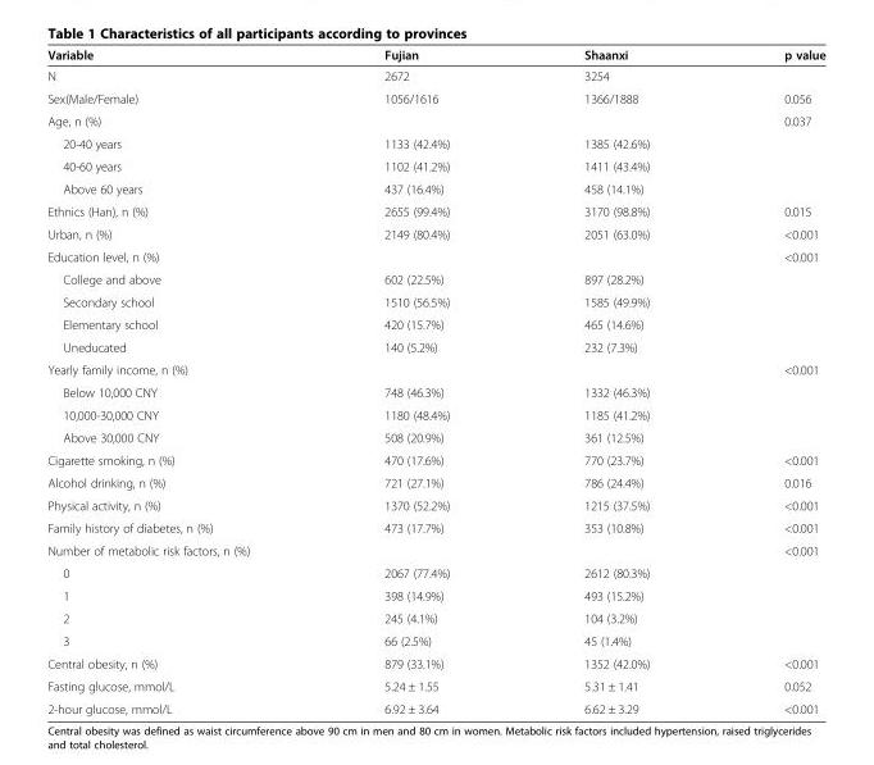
<table><thead><tr><td>Variable</td><td>Fujian</td><td>Shaanxi</td><td>p value</td></tr></thead><tbody><tr><td>N</td><td>2672</td><td>3254</td><td></td></tr><tr><td>Sex(Male/Female)</td><td>1056/1616</td><td>1366/1888</td><td>0.056</td></tr><tr><td>Age, n (%)</td><td></td><td></td><td>0.037</td></tr><tr><td>20-40 years</td><td>1133 (42.4%)</td><td>1385 (42.6%)</td><td></td></tr><tr><td>40-60 years</td><td>1102 (41.2%)</td><td>1411 (43.4%)</td><td></td></tr><tr><td>Above 60 years</td><td>437 (16.4%)</td><td>458 (14.1%)</td><td></td></tr><tr><td>Ethnics (Han), n (%)</td><td>2655 (99.4%)</td><td>3170 (98.8%)</td><td>0.015</td></tr><tr><td>Urban, n (%)</td><td>2149 (80.4%)</td><td>2051 (63.0%)</td><td>&lt;0.001</td></tr><tr><td>Education level, n (%)</td><td></td><td></td><td>&lt;0.001</td></tr><tr><td>College and above</td><td>602 (22.5%)</td><td>897 (28.2%)</td><td></td></tr><tr><td>Secondary school</td><td>1510 (56.5%)</td><td>1585 (49.9%)</td><td></td></tr><tr><td>Elementary school</td><td>420 (15.7%)</td><td>465 (14.6%)</td><td></td></tr><tr><td>Uneducated</td><td>140 (5.2%)</td><td>232 (7.3%)</td><td></td></tr><tr><td>Yearly family income, n (%)</td><td></td><td></td><td>&lt;0.001</td></tr><tr><td>Below 10,000 CNY</td><td>748 (46.3%)</td><td>1332 (46.3%)</td><td></td></tr><tr><td>10,000-30,000 CNY</td><td>1180 (48.4%)</td><td>1185 (41.2%)</td><td></td></tr><tr><td>Above 30,000 CNY</td><td>508 (20.9%)</td><td>361 (12.5%)</td><td></td></tr><tr><td>Cigarette smoking, n (%)</td><td>470 (17.6%)</td><td>770 (23.7%)</td><td>&lt;0.001</td></tr><tr><td>Alcohol drinking, n (%)</td><td>721 (27.1%)</td><td>786 (24.4%)</td><td>0.016</td></tr><tr><td>Physical activity, n (%)</td><td>1370 (52.2%)</td><td>1215 (37.5%)</td><td>&lt;0.001</td></tr><tr><td>Family history of diabetes, n (%)</td><td>473 (17.7%)</td><td>353 (10.8%)</td><td>&lt;0.001</td></tr><tr><td>Number of metabolic risk factors, n (%)</td><td></td><td></td><td>&lt;0.001</td></tr><tr><td>0</td><td>2067 (77.4%)</td><td>2612 (80.3%)</td><td></td></tr><tr><td>1</td><td>398 (14.9%)</td><td>493 (15.2%)</td><td></td></tr><tr><td>2</td><td>245 (4.1%)</td><td>104 (3.2%)</td><td></td></tr><tr><td>3</td><td>66 (2.5%)</td><td>45 (1.4%)</td><td></td></tr><tr><td>Central obesity, n (%)</td><td>879 (33.1%)</td><td>1352 (42.0%)</td><td>&lt;0.001</td></tr><tr><td>Fasting glucose, mmol/L</td><td>5.24 ± 1.55</td><td>5.31 ± 1.41</td><td>0.052</td></tr><tr><td>2-hour glucose, mmol/L</td><td>6.92 ± 3.64</td><td>6.62 ± 3.29</td><td>&lt;0.001</td></tr></tbody></table>